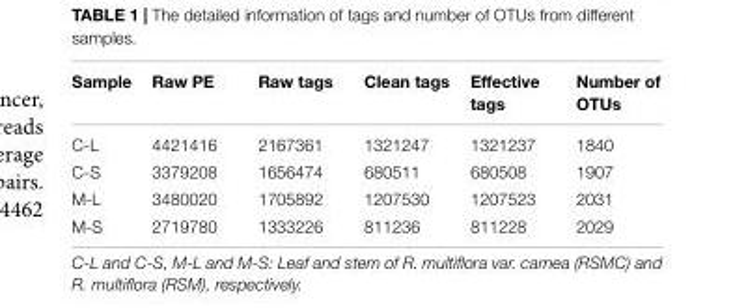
<table><thead><tr><td>Sample</td><td>Raw PE</td><td>Raw tags</td><td>Clean tags</td><td>Effective tags</td><td>Number of OTUs</td></tr></thead><tbody><tr><td>C-L</td><td>4421416</td><td>2167361</td><td>1321247</td><td>1321237</td><td>1840</td></tr><tr><td>C-S</td><td>3379208</td><td>1656474</td><td>680511</td><td>680508</td><td>1907</td></tr><tr><td>M-L</td><td>3480020</td><td>1705892</td><td>1207530</td><td>1207523</td><td>2031</td></tr><tr><td>M-S</td><td>2719780</td><td>1333226</td><td>811236</td><td>811228</td><td>2029</td></tr></tbody></table>